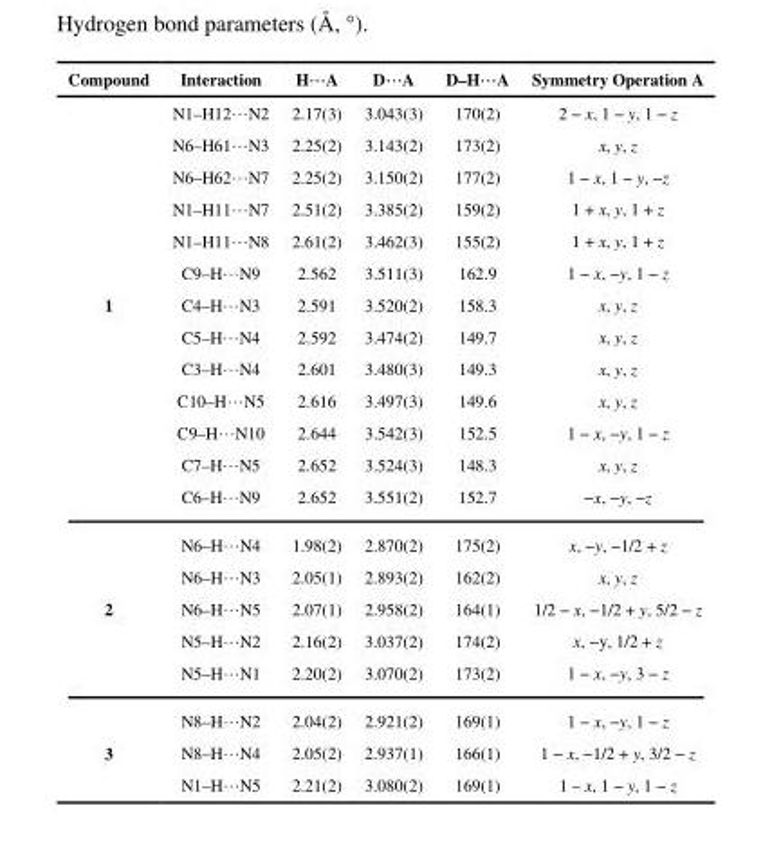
<table><thead><tr><td>Compound</td><td>Interaction</td><td>H⋯A</td><td>D⋯A</td><td>D–H⋯A</td><td>Symmetry Operation A</td></tr></thead><tbody><tr><td rowspan="13">1</td><td>N1–H12⋯N2</td><td>2.17(3)</td><td>3.043(3)</td><td>170(2)</td><td>2 − x, 1 − y, 1 − z</td></tr><tr><td>N6–H61⋯N3</td><td>2.25(2)</td><td>3.143(2)</td><td>173(2)</td><td>x, y, z</td></tr><tr><td>N6–H62⋯N7</td><td>2.25(2)</td><td>3.150(2)</td><td>177(2)</td><td>1 − x, 1 − y, −z</td></tr><tr><td>N1–H11⋯N7</td><td>2.51(2)</td><td>3.385(2)</td><td>159(2)</td><td>1 + x, y, 1 + z</td></tr><tr><td>N1–H11⋯N8</td><td>2.61(2)</td><td>3.462(3)</td><td>155(2)</td><td>1 + x, y, 1 + z</td></tr><tr><td>C9–H⋯N9</td><td>2.562</td><td>3.511(3)</td><td>162.9</td><td>1 − x, −y, 1 − z</td></tr><tr><td>C4–H⋯N3</td><td>2.591</td><td>3.520(2)</td><td>158.3</td><td>x, y, z</td></tr><tr><td>C5–H⋯N4</td><td>2.592</td><td>3.474(2)</td><td>149.7</td><td>x, y, z</td></tr><tr><td>C3–H⋯N4</td><td>2.601</td><td>3.480(3)</td><td>149.3</td><td>x, y, z</td></tr><tr><td>C10–H⋯N5</td><td>2.616</td><td>3.497(3)</td><td>149.6</td><td>x, y, z</td></tr><tr><td>C9–H⋯N10</td><td>2.644</td><td>3.542(3)</td><td>152.5</td><td>1 − x, −y, 1 − z</td></tr><tr><td>C7–H⋯N5</td><td>2.652</td><td>3.524(3)</td><td>148.3</td><td>x, y, z</td></tr><tr><td>C6–H⋯N9</td><td>2.652</td><td>3.551(2)</td><td>152.7</td><td>−x, −y, −z</td></tr><tr><td rowspan="5">2</td><td>N6–H⋯N4</td><td>1.98(2)</td><td>2.870(2)</td><td>175(2)</td><td>x, −y, −1/2 + z</td></tr><tr><td>N6–H⋯N3</td><td>2.05(1)</td><td>2.893(2)</td><td>162(2)</td><td>x, y, z</td></tr><tr><td>N6–H⋯N5</td><td>2.07(1)</td><td>2.958(2)</td><td>164(1)</td><td>1/2 − x, −1/2 + y, 5/2 − z</td></tr><tr><td>N5–H⋯N2</td><td>2.16(2)</td><td>3.037(2)</td><td>174(2)</td><td>x, −y, 1/2 + z</td></tr><tr><td>N5–H⋯N1</td><td>2.20(2)</td><td>3.070(2)</td><td>173(2)</td><td>1 − x, −y, 3 − z</td></tr><tr><td rowspan="3">3</td><td>N8–H⋯N2</td><td>2.04(2)</td><td>2.921(2)</td><td>169(1)</td><td>1 − x, −y, 1 − z</td></tr><tr><td>N8–H⋯N4</td><td>2.05(2)</td><td>2.937(1)</td><td>166(1)</td><td>1 − x, −1/2 + y, 3/2 − z</td></tr><tr><td>N1–H⋯N5</td><td>2.21(2)</td><td>3.080(2)</td><td>169(1)</td><td>1 – x, 1 − y, 1 − z</td></tr></tbody></table>